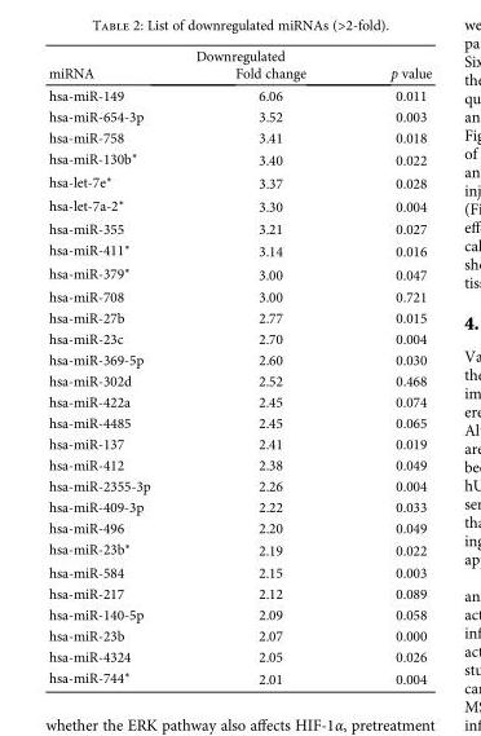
<table><thead><tr><td colspan="3">Downregulated</td></tr><tr><td>miRNA</td><td>Fold change</td><td>p value</td></tr></thead><tbody><tr><td>hsa-miR-149</td><td>6.06</td><td>0.011</td></tr><tr><td>hsa-miR-654-3p</td><td>3.52</td><td>0.003</td></tr><tr><td>hsa-miR-758</td><td>3.41</td><td>0.018</td></tr><tr><td>hsa-miR-130b∗</td><td>3.40</td><td>0.022</td></tr><tr><td>hsa-let-7e∗</td><td>3.37</td><td>0.028</td></tr><tr><td>hsa-let-7a-2∗</td><td>3.30</td><td>0.004</td></tr><tr><td>hsa-miR-355</td><td>3.21</td><td>0.027</td></tr><tr><td>hsa-miR-411∗</td><td>3.14</td><td>0.016</td></tr><tr><td>hsa-miR-379∗</td><td>3.00</td><td>0.047</td></tr><tr><td>hsa-miR-708</td><td>3.00</td><td>0.721</td></tr><tr><td>hsa-miR-27b</td><td>2.77</td><td>0.015</td></tr><tr><td>hsa-miR-23c</td><td>2.70</td><td>0.004</td></tr><tr><td>hsa-miR-369-5p</td><td>2.60</td><td>0.030</td></tr><tr><td>hsa-miR-302d</td><td>2.52</td><td>0.468</td></tr><tr><td>hsa-miR-422a</td><td>2.45</td><td>0.074</td></tr><tr><td>hsa-miR-4485</td><td>2.45</td><td>0.065</td></tr><tr><td>hsa-miR-137</td><td>2.41</td><td>0.019</td></tr><tr><td>hsa-miR-412</td><td>2.38</td><td>0.049</td></tr><tr><td>hsa-miR-2355-3p</td><td>2.26</td><td>0.004</td></tr><tr><td>hsa-miR-409-3p</td><td>2.22</td><td>0.033</td></tr><tr><td>hsa-miR-496</td><td>2.20</td><td>0.049</td></tr><tr><td>hsa-miR-23b∗</td><td>2.19</td><td>0.022</td></tr><tr><td>hsa-miR-584</td><td>2.15</td><td>0.003</td></tr><tr><td>hsa-miR-217</td><td>2.12</td><td>0.089</td></tr><tr><td>hsa-miR-140-5p</td><td>2.09</td><td>0.058</td></tr><tr><td>hsa-miR-23b</td><td>2.07</td><td>0.000</td></tr><tr><td>hsa-miR-4324</td><td>2.05</td><td>0.026</td></tr><tr><td>hsa-miR-744∗</td><td>2.01</td><td>0.004</td></tr></tbody></table>